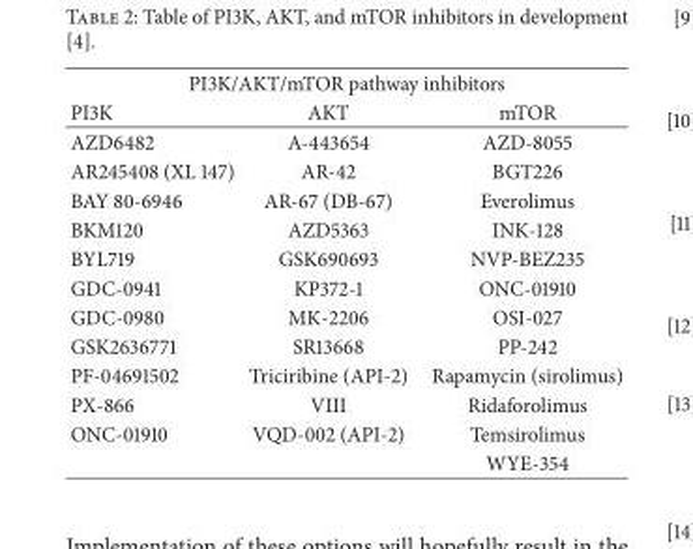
<table><thead><tr><td colspan="3">PI3K/AKT/mTOR pathway inhibitors</td></tr><tr><td>PI3K</td><td>AKT</td><td>mTOR</td></tr></thead><tbody><tr><td>AZD6482</td><td>A-443654</td><td>AZD-8055</td></tr><tr><td>AR245408 (XL 147)</td><td>AR-42</td><td>BGT226</td></tr><tr><td>BAY 80-6946</td><td>AR-67 (DB-67)</td><td>Everolimus</td></tr><tr><td>BKM120</td><td>AZD5363</td><td>INK-128</td></tr><tr><td>BYL719</td><td>GSK690693</td><td>NVP-BEZ235</td></tr><tr><td>GDC-0941</td><td>KP372-1</td><td>ONC-01910</td></tr><tr><td>GDC-0980</td><td>MK-2206</td><td>OSI-027</td></tr><tr><td>GSK2636771</td><td>SR13668</td><td>PP-242</td></tr><tr><td>PF-04691502</td><td>Triciribine (API-2)</td><td>Rapamycin (sirolimus)</td></tr><tr><td>PX-866</td><td>VIII</td><td>Ridaforolimus</td></tr><tr><td rowspan="2">ONC-01910</td><td>VQD-002 (API-2)</td><td>Temsirolimus</td></tr><tr><td></td><td>WYE-354</td></tr></tbody></table>